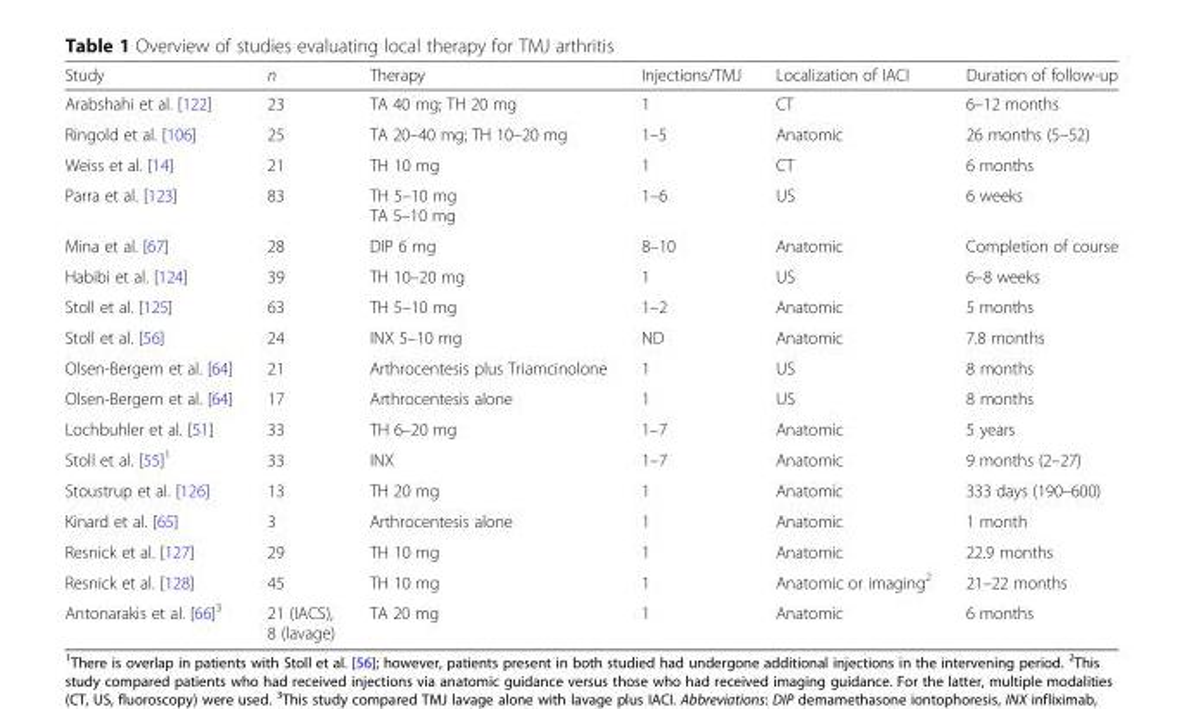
<table><thead><tr><td>Study</td><td>n</td><td>Therapy</td><td>Injections/TMJ</td><td>Localization of IACI</td><td>Duration of follow-up</td></tr></thead><tbody><tr><td>Arabshahi et al. [122]</td><td>23</td><td>TA 40 mg; TH 20 mg</td><td>1</td><td>CT</td><td>6–12 months</td></tr><tr><td>Ringold et al. [106]</td><td>25</td><td>TA 20–40 mg; TH 10–20 mg</td><td>1–5</td><td>Anatomic</td><td>26 months (5–52)</td></tr><tr><td>Weiss et al. [14]</td><td>21</td><td>TH 10 mg</td><td>1</td><td>CT</td><td>6 months</td></tr><tr><td>Parra et al. [123]</td><td>83</td><td>TH 5–10 mg TA 5–10 mg</td><td>1–6</td><td>US</td><td>6 weeks</td></tr><tr><td>Mina et al. [67]</td><td>28</td><td>DIP 6 mg</td><td>8–10</td><td>Anatomic</td><td>Completion of course</td></tr><tr><td>Habibi et al. [124]</td><td>39</td><td>TH 10–20 mg</td><td>1</td><td>US</td><td>6–8 weeks</td></tr><tr><td>Stoll et al. [125]</td><td>63</td><td>TH 5–10 mg</td><td>1–2</td><td>Anatomic</td><td>5 months</td></tr><tr><td>Stoll et al. [56]</td><td>24</td><td>INX 5–10 mg</td><td>ND</td><td>Anatomic</td><td>7.8 months</td></tr><tr><td>Olsen-Bergem et al. [64]</td><td>21</td><td>Arthrocentesis plus Triamcinolone</td><td>1</td><td>US</td><td>8 months</td></tr><tr><td>Olsen-Bergem et al. [64]</td><td>17</td><td>Arthrocentesis alone</td><td>1</td><td>US</td><td>8 months</td></tr><tr><td>Lochbuhler et al. [51]</td><td>33</td><td>TH 6–20 mg</td><td>1–7</td><td>Anatomic</td><td>5 years</td></tr><tr><td>Stoll et al. [55]<sup>1</sup></td><td>33</td><td>INX</td><td>1–7</td><td>Anatomic</td><td>9 months (2–27)</td></tr><tr><td>Stoustrup et al. [126]</td><td>13</td><td>TH 20 mg</td><td>1</td><td>Anatomic</td><td>333 days (190–600)</td></tr><tr><td>Kinard et al. [65]</td><td>3</td><td>Arthrocentesis alone</td><td>1</td><td>Anatomic</td><td>1 month</td></tr><tr><td>Resnick et al. [127]</td><td>29</td><td>TH 10 mg</td><td>1</td><td>Anatomic</td><td>22.9 months</td></tr><tr><td>Resnick et al. [128]</td><td>45</td><td>TH 10 mg</td><td>1</td><td>Anatomic or imaging<sup>2</sup></td><td>21–22 months</td></tr><tr><td>Antonarakis et al. [66]<sup>3</sup></td><td>21 (IACS), 8 (lavage)</td><td>TA 20 mg</td><td>1</td><td>Anatomic</td><td>6 months</td></tr></tbody></table>